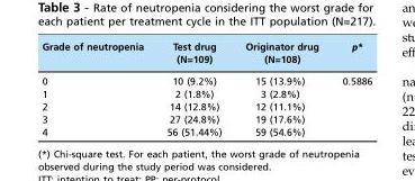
<table><thead><tr><td>Grade of neutropenia</td><td>Test drug (N=109)</td><td>Originator drug (N=108)</td><td>p*</td></tr></thead><tbody><tr><td>0</td><td>10 (9.2%)</td><td>15 (13.9%)</td><td>0.5886</td></tr><tr><td>1</td><td>2 (1.8%)</td><td>3 (2.8%)</td><td></td></tr><tr><td>2</td><td>14 (12.8%)</td><td>12 (11.1%)</td><td></td></tr><tr><td>3</td><td>27 (24.8%)</td><td>19 (17.6%)</td><td></td></tr><tr><td>4</td><td>56 (51.44%)</td><td>59 (54.6%)</td><td></td></tr></tbody></table>